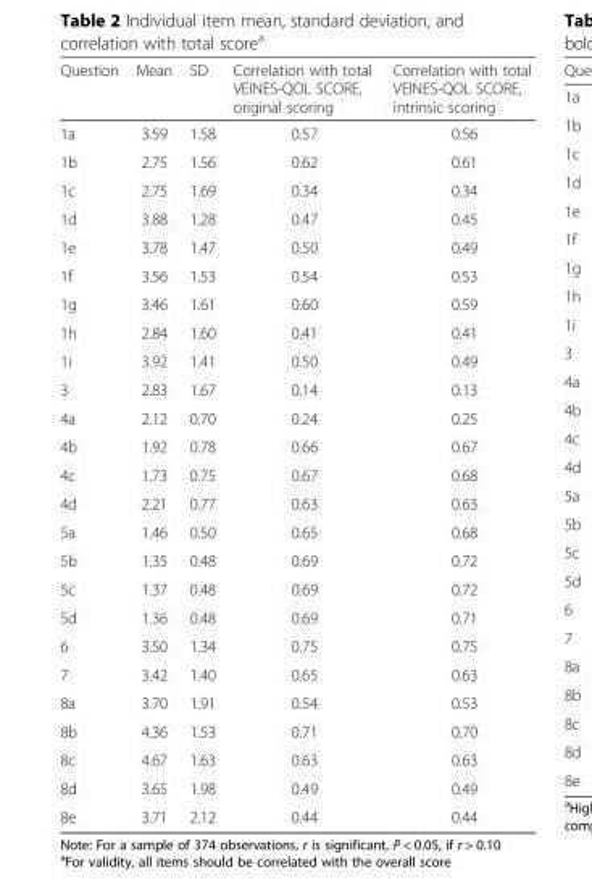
<table><thead><tr><td>Question</td><td>Mean</td><td>SD</td><td>Correlation with total VEINES-QOL SCORE, original scoring</td><td>Correlation with total VEINES-QOL SCORE, intrinsic scoring</td></tr></thead><tbody><tr><td>1a</td><td>3.59</td><td>1.58</td><td>0.57</td><td>0.56</td></tr><tr><td>1b</td><td>2.75</td><td>1.56</td><td>0.62</td><td>0.61</td></tr><tr><td>1c</td><td>2.75</td><td>1.69</td><td>0.34</td><td>0.34</td></tr><tr><td>1d</td><td>3.88</td><td>1.28</td><td>0.47</td><td>0.45</td></tr><tr><td>1e</td><td>3.78</td><td>1.47</td><td>0.50</td><td>0.49</td></tr><tr><td>1f</td><td>3.56</td><td>1.53</td><td>0.54</td><td>0.53</td></tr><tr><td>1g</td><td>3.46</td><td>1.61</td><td>0.60</td><td>0.59</td></tr><tr><td>1h</td><td>2.84</td><td>1.60</td><td>0.41</td><td>0.41</td></tr><tr><td>1i</td><td>3.92</td><td>1.41</td><td>0.50</td><td>0.49</td></tr><tr><td>3</td><td>2.83</td><td>1.67</td><td>0.14</td><td>0.13</td></tr><tr><td>4a</td><td>2.12</td><td>0.70</td><td>0.24</td><td>0.25</td></tr><tr><td>4b</td><td>1.92</td><td>0.78</td><td>0.66</td><td>0.67</td></tr><tr><td>4c</td><td>1.73</td><td>0.75</td><td>0.67</td><td>0.68</td></tr><tr><td>4d</td><td>2.21</td><td>0.77</td><td>0.63</td><td>0.63</td></tr><tr><td>5a</td><td>1.46</td><td>0.50</td><td>0.65</td><td>0.68</td></tr><tr><td>5b</td><td>1.35</td><td>0.48</td><td>0.69</td><td>0.72</td></tr><tr><td>5c</td><td>1.37</td><td>0.48</td><td>0.69</td><td>0.72</td></tr><tr><td>5d</td><td>1.36</td><td>0.48</td><td>0.69</td><td>0.71</td></tr><tr><td>6</td><td>3.50</td><td>1.34</td><td>0.75</td><td>0.75</td></tr><tr><td>7</td><td>3.42</td><td>1.40</td><td>0.65</td><td>0.63</td></tr><tr><td>8a</td><td>3.70</td><td>1.91</td><td>0.54</td><td>0.53</td></tr><tr><td>8b</td><td>4.36</td><td>1.53</td><td>0.71</td><td>0.70</td></tr><tr><td>8c</td><td>4.67</td><td>1.63</td><td>0.63</td><td>0.63</td></tr><tr><td>8d</td><td>3.65</td><td>1.98</td><td>0.49</td><td>0.49</td></tr><tr><td>8e</td><td>3.71</td><td>2.12</td><td>0.44</td><td>0.44</td></tr></tbody></table>